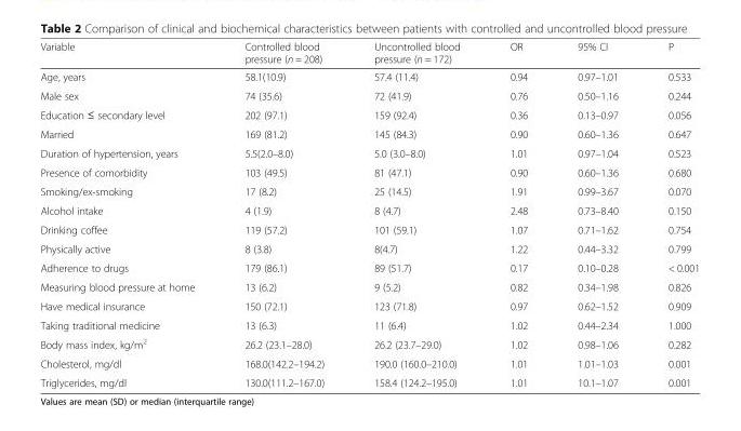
<table><thead><tr><td>Variable</td><td>Controlled blood pressure (n = 208)</td><td>Uncontrolled blood pressure (n = 172)</td><td>OR</td><td>95% CI</td><td>P</td></tr></thead><tbody><tr><td>Age, years</td><td>58.1(10.9)</td><td>57.4 (11.4)</td><td>0.94</td><td>0.97–1.01</td><td>0.533</td></tr><tr><td>Male sex</td><td>74 (35.6)</td><td>72 (41.9)</td><td>0.76</td><td>0.50–1.16</td><td>0.244</td></tr><tr><td>Education ≤ secondary level</td><td>202 (97.1)</td><td>159 (92.4)</td><td>0.36</td><td>0.13–0.97</td><td>0.056</td></tr><tr><td>Married</td><td>169 (81.2)</td><td>145 (84.3)</td><td>0.90</td><td>0.60–1.36</td><td>0.647</td></tr><tr><td>Duration of hypertension, years</td><td>5.5(2.0–8.0)</td><td>5.0 (3.0–8.0)</td><td>1.01</td><td>0.97–1.04</td><td>0.523</td></tr><tr><td>Presence of comorbidity</td><td>103 (49.5)</td><td>81 (47.1)</td><td>0.90</td><td>0.60–1.36</td><td>0.680</td></tr><tr><td>Smoking/ex-smoking</td><td>17 (8.2)</td><td>25 (14.5)</td><td>1.91</td><td>0.99–3.67</td><td>0.070</td></tr><tr><td>Alcohol intake</td><td>4 (1.9)</td><td>8 (4.7)</td><td>2.48</td><td>0.73–8.40</td><td>0.150</td></tr><tr><td>Drinking coffee</td><td>119 (57.2)</td><td>101 (59.1)</td><td>1.07</td><td>0.71–1.62</td><td>0.754</td></tr><tr><td>Physically active</td><td>8 (3.8)</td><td>8(4.7)</td><td>1.22</td><td>0.44–3.32</td><td>0.799</td></tr><tr><td>Adherence to drugs</td><td>179 (86.1)</td><td>89 (51.7)</td><td>0.17</td><td>0.10–0.28</td><td>&lt; 0.001</td></tr><tr><td>Measuring blood pressure at home</td><td>13 (6.2)</td><td>9 (5.2)</td><td>0.82</td><td>0.34–1.98</td><td>0.826</td></tr><tr><td>Have medical insurance</td><td>150 (72.1)</td><td>123 (71.8)</td><td>0.97</td><td>0.62–1.52</td><td>0.909</td></tr><tr><td>Taking traditional medicine</td><td>13 (6.3)</td><td>11 (6.4)</td><td>1.02</td><td>0.44–2.34</td><td>1.000</td></tr><tr><td>Body mass index, kg/m<sup>2</sup></td><td>26.2 (23.1–28.0)</td><td>26.2 (23.7–29.0)</td><td>1.02</td><td>0.98–1.06</td><td>0.282</td></tr><tr><td>Cholesterol, mg/dl</td><td>168.0(142.2–194.2)</td><td>190.0 (160.0–210.0)</td><td>1.01</td><td>1.01–1.03</td><td>0.001</td></tr><tr><td>Triglycerides, mg/dl</td><td>130.0(111.2–167.0)</td><td>158.4 (124.2–195.0)</td><td>1.01</td><td>10.1–1.07</td><td>0.001</td></tr></tbody></table>